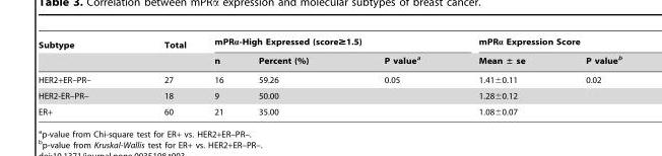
<table><thead><tr><td rowspan="2">Subtype</td><td rowspan="2">Total</td><td colspan="3">mPRα-High Expressed (score≥1.5)</td><td colspan="2">mPRα Expression Score</td></tr><tr><td>n</td><td>Percent (%)</td><td>P value<sup>a</sup></td><td>Mean ± se</td><td>P value<sup>b</sup></td></tr></thead><tbody><tr><td>HER2+ER–PR–</td><td>27</td><td>16</td><td>59.26</td><td>0.05</td><td>1.41±0.11</td><td>0.02</td></tr><tr><td>HER2-ER–PR–</td><td>18</td><td>9</td><td>50.00</td><td></td><td>1.28±0.12</td><td></td></tr><tr><td>ER+</td><td>60</td><td>21</td><td>35.00</td><td></td><td>1.08±0.07</td><td></td></tr></tbody></table>